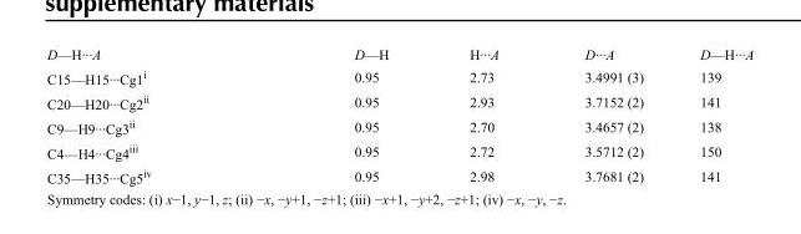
<table><tbody><tr><td>D—H···A</td><td>D—H</td><td>H···A</td><td>D···A</td><td>D—H···A</td></tr><tr><td>C15—H15···Cg1<sup>i</sup></td><td>0.95</td><td>2.73</td><td>3.4991 (3)</td><td>139</td></tr><tr><td>C20—H20···Cg2<sup>ii</sup></td><td>0.95</td><td>2.93</td><td>3.7152 (2)</td><td>141</td></tr><tr><td>C9—H9···Cg3<sup>ii</sup></td><td>0.95</td><td>2.70</td><td>3.4657 (2)</td><td>138</td></tr><tr><td>C4—H4···Cg4<sup>iii</sup></td><td>0.95</td><td>2.72</td><td>3.5712 (2)</td><td>150</td></tr><tr><td>C35—H35···Cg5<sup>iv</sup></td><td>0.95</td><td>2.98</td><td>3.7681 (2)</td><td>141</td></tr></tbody></table>